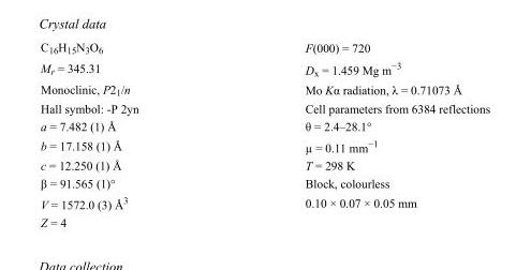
<table><tbody><tr><td>C<sub>16</sub>H<sub>15</sub>N<sub>3</sub>O<sub>6</sub></td><td>F(000) = 720</td></tr><tr><td>M<sub>r</sub> = 345.31</td><td>D<sub>x</sub> = 1.459 Mg m<sup>−3</sup></td></tr><tr><td>Monoclinic, P2<sub>1</sub>/n</td><td>Mo Kα radiation, λ = 0.71073 Å</td></tr><tr><td>Hall symbol: -P 2yn</td><td>Cell parameters from 6384 reflections</td></tr><tr><td>a = 7.482 (1) Å</td><td>θ = 2.4–28.1°</td></tr><tr><td>b = 17.158 (1) Å</td><td>µ = 0.11 mm<sup>−1</sup></td></tr><tr><td>c = 12.250 (1) Å</td><td>T = 298 K</td></tr><tr><td>β = 91.565 (1)°</td><td>Block, colourless</td></tr><tr><td>V = 1572.0 (3) Å<sup>3</sup></td><td>0.10 × 0.07 × 0.05 mm</td></tr><tr><td>Z = 4</td><td></td></tr></tbody></table>